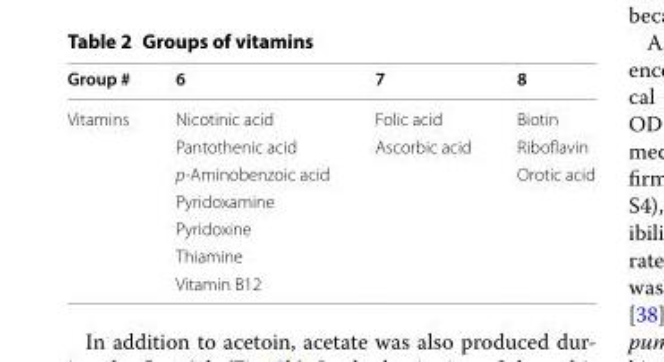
<table><thead><tr><td>Group #</td><td>6</td><td>7</td><td>8</td></tr></thead><tbody><tr><td rowspan="7">Vitamins</td><td>Nicotinic acid</td><td>Folic acid</td><td>Biotin</td></tr><tr><td>Pantothenic acid</td><td>Ascorbic acid</td><td>Riboflavin</td></tr><tr><td>p-Aminobenzoic acid</td><td></td><td>Orotic acid</td></tr><tr><td>Pyridoxamine</td><td></td><td></td></tr><tr><td>Pyridoxine</td><td></td><td></td></tr><tr><td>Thiamine</td><td></td><td></td></tr><tr><td>Vitamin B12</td><td></td><td></td></tr></tbody></table>